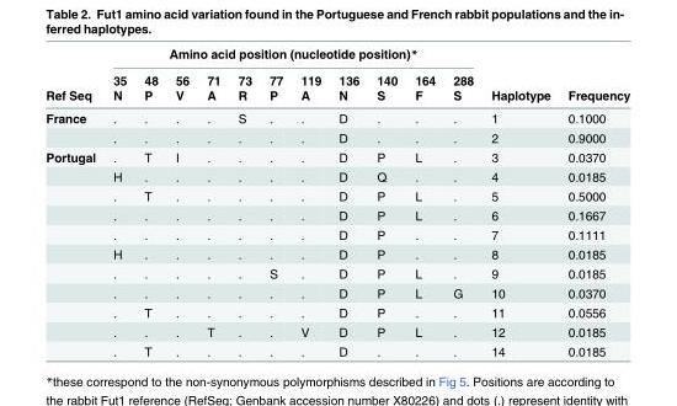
<table><thead><tr><td rowspan="3">Ref Seq</td><td colspan="11">Amino acid position (nucleotide position)*</td><td rowspan="3">Haplotype</td><td rowspan="3">Frequency</td></tr><tr><td rowspan="2">35 N</td><td rowspan="2">48 P</td><td rowspan="2">56 V</td><td rowspan="2">71 A</td><td rowspan="2">73 R</td><td rowspan="2">77 P</td><td rowspan="2">119 A</td><td rowspan="2">136 N</td><td rowspan="2">140 S</td><td rowspan="2">164 F</td><td rowspan="2">288 S</td></tr><tr></tr></thead><tbody><tr><td rowspan="2">France</td><td>.</td><td>.</td><td>.</td><td>.</td><td>S</td><td>.</td><td>.</td><td>D</td><td>.</td><td>.</td><td>.</td><td>1</td><td>0.1000</td></tr><tr><td>.</td><td>.</td><td>.</td><td>.</td><td>.</td><td>.</td><td>.</td><td>D</td><td>.</td><td>.</td><td>.</td><td>2</td><td>0.9000</td></tr><tr><td rowspan="11">Portugal</td><td>.</td><td>T</td><td>I</td><td>.</td><td>.</td><td>.</td><td>.</td><td>D</td><td>P</td><td>L</td><td>.</td><td>3</td><td>0.0370</td></tr><tr><td>H</td><td>.</td><td>.</td><td>.</td><td>.</td><td>.</td><td>.</td><td>D</td><td>Q</td><td>.</td><td>.</td><td>4</td><td>0.0185</td></tr><tr><td>.</td><td>T</td><td>.</td><td>.</td><td>.</td><td>.</td><td>.</td><td>D</td><td>P</td><td>L</td><td>.</td><td>5</td><td>0.5000</td></tr><tr><td>.</td><td>.</td><td>.</td><td>.</td><td>.</td><td>.</td><td>.</td><td>D</td><td>P</td><td>L</td><td>.</td><td>6</td><td>0.1667</td></tr><tr><td>.</td><td>.</td><td>.</td><td>.</td><td>.</td><td>.</td><td>.</td><td>D</td><td>P</td><td>.</td><td>.</td><td>7</td><td>0.1111</td></tr><tr><td>H</td><td>.</td><td>.</td><td>.</td><td>.</td><td>.</td><td>.</td><td>D</td><td>P</td><td>.</td><td>.</td><td>8</td><td>0.0185</td></tr><tr><td>.</td><td>.</td><td>.</td><td>.</td><td>.</td><td>S</td><td>.</td><td>D</td><td>P</td><td>L</td><td>.</td><td>9</td><td>0.0185</td></tr><tr><td>.</td><td>.</td><td>.</td><td>.</td><td>.</td><td>.</td><td>.</td><td>D</td><td>P</td><td>L</td><td>G</td><td>10</td><td>0.0370</td></tr><tr><td>.</td><td>T</td><td>.</td><td>.</td><td>.</td><td>.</td><td>.</td><td>D</td><td>P</td><td>.</td><td>.</td><td>11</td><td>0.0556</td></tr><tr><td>.</td><td>.</td><td>.</td><td>T</td><td>.</td><td>.</td><td>V</td><td>D</td><td>P</td><td>L</td><td>.</td><td>12</td><td>0.0185</td></tr><tr><td>.</td><td>T</td><td>.</td><td>.</td><td>.</td><td>.</td><td>.</td><td>D</td><td>.</td><td>.</td><td>.</td><td>14</td><td>0.0185</td></tr></tbody></table>